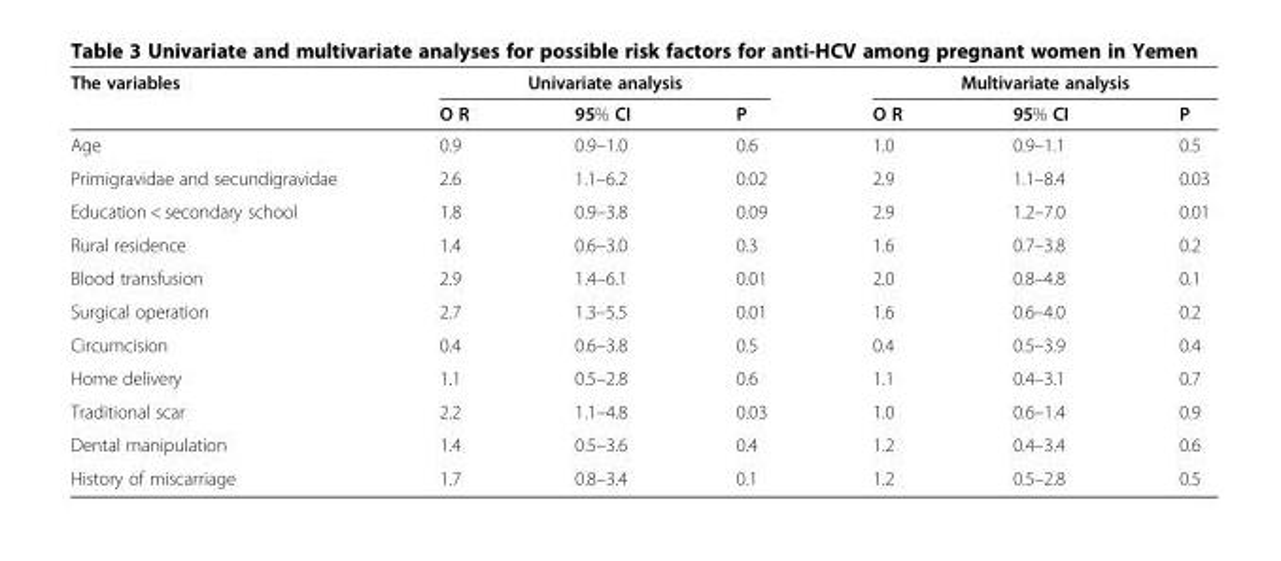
<table><thead><tr><td rowspan="2">The variables</td><td colspan="3">Univariate analysis</td><td colspan="3">Multivariate analysis</td></tr><tr><td>O R</td><td>95% CI</td><td>P</td><td>O R</td><td>95% CI</td><td>P</td></tr></thead><tbody><tr><td>Age</td><td>0.9</td><td>0.9–1.0</td><td>0.6</td><td>1.0</td><td>0.9–1.1</td><td>0.5</td></tr><tr><td>Primigravidae and secundigravidae</td><td>2.6</td><td>1.1–6.2</td><td>0.02</td><td>2.9</td><td>1.1–8.4</td><td>0.03</td></tr><tr><td>Education &lt; secondary school</td><td>1.8</td><td>0.9–3.8</td><td>0.09</td><td>2.9</td><td>1.2–7.0</td><td>0.01</td></tr><tr><td>Rural residence</td><td>1.4</td><td>0.6–3.0</td><td>0.3</td><td>1.6</td><td>0.7–3.8</td><td>0.2</td></tr><tr><td>Blood transfusion</td><td>2.9</td><td>1.4–6.1</td><td>0.01</td><td>2.0</td><td>0.8–4.8</td><td>0.1</td></tr><tr><td>Surgical operation</td><td>2.7</td><td>1.3–5.5</td><td>0.01</td><td>1.6</td><td>0.6–4.0</td><td>0.2</td></tr><tr><td>Circumcision</td><td>0.4</td><td>0.6–3.8</td><td>0.5</td><td>0.4</td><td>0.5–3.9</td><td>0.4</td></tr><tr><td>Home delivery</td><td>1.1</td><td>0.5–2.8</td><td>0.6</td><td>1.1</td><td>0.4–3.1</td><td>0.7</td></tr><tr><td>Traditional scar</td><td>2.2</td><td>1.1–4.8</td><td>0.03</td><td>1.0</td><td>0.6–1.4</td><td>0.9</td></tr><tr><td>Dental manipulation</td><td>1.4</td><td>0.5–3.6</td><td>0.4</td><td>1.2</td><td>0.4–3.4</td><td>0.6</td></tr><tr><td>History of miscarriage</td><td>1.7</td><td>0.8–3.4</td><td>0.1</td><td>1.2</td><td>0.5–2.8</td><td>0.5</td></tr></tbody></table>